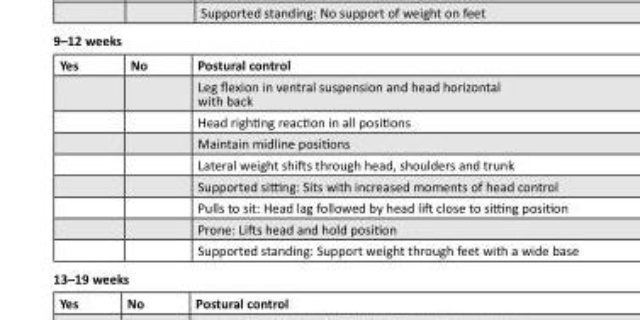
<table><thead><tr><td>Yes</td><td>No</td><td>Postural control</td></tr></thead><tbody><tr><td></td><td></td><td>Leg flexion in ventral suspension and head horizontal with back</td></tr><tr><td></td><td></td><td>Head righting reaction in all positions</td></tr><tr><td></td><td></td><td>Maintain midline positions</td></tr><tr><td></td><td></td><td>Lateral weight shifts through head, shoulders and trunk</td></tr><tr><td></td><td></td><td>Supported sitting: Sits with increased moments of head control</td></tr><tr><td></td><td></td><td>Pulls to sit: Head lag followed by head lift close to sitting position</td></tr><tr><td></td><td></td><td>Prone: Lifts head and hold position</td></tr><tr><td></td><td></td><td>Supported standing: Support weight through feet with a wide base</td></tr></tbody></table>